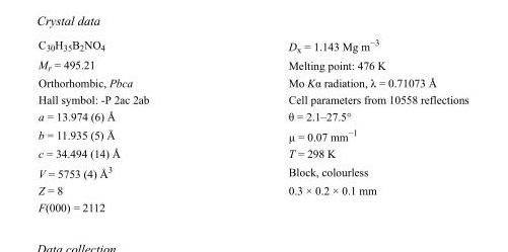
<table><tbody><tr><td>C<sub>30</sub>H<sub>35</sub>B<sub>2</sub>NO<sub>4</sub></td><td>D<sub>x</sub> = 1.143 Mg m<sup>−3</sup></td></tr><tr><td>M<sub>r</sub> = 495.21</td><td>Melting point: 476 K</td></tr><tr><td>Orthorhombic, Pbca</td><td>Mo Kα radiation, λ = 0.71073 Å</td></tr><tr><td>Hall symbol: -P 2ac 2ab</td><td>Cell parameters from 10558 reflections</td></tr><tr><td>a = 13.974 (6) Å</td><td>θ = 2.1–27.5°</td></tr><tr><td>b = 11.935 (5) Å</td><td>µ = 0.07 mm<sup>−1</sup></td></tr><tr><td>c = 34.494 (14) Å</td><td>T = 298 K</td></tr><tr><td>V = 5753 (4) Å<sup>3</sup></td><td>Block, colourless</td></tr><tr><td>Z = 8</td><td>0.3 × 0.2 × 0.1 mm</td></tr><tr><td>F(000) = 2112</td><td></td></tr></tbody></table>